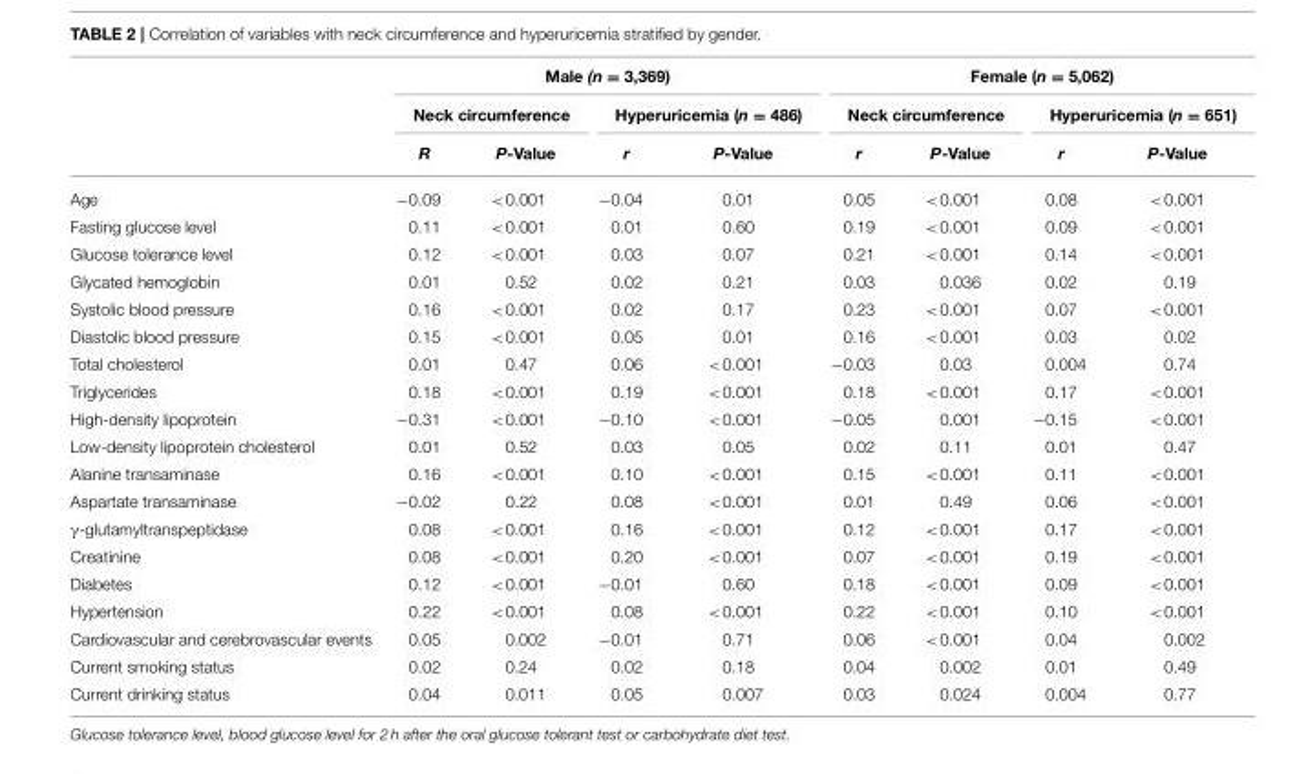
<table><thead><tr><td rowspan="3"></td><td colspan="4">Male (n = 3,369)</td><td colspan="4">Female (n = 5,062)</td></tr><tr><td colspan="2">Neck circumference</td><td colspan="2">Hyperuricemia (n = 486)</td><td colspan="2">Neck circumference</td><td colspan="2">Hyperuricemia (n = 651)</td></tr><tr><td>R</td><td>P-Value</td><td>r</td><td>P-Value</td><td>r</td><td>P-Value</td><td>r</td><td>P-Value</td></tr></thead><tbody><tr><td>Age</td><td>−0.09</td><td>&lt;0.001</td><td>−0.04</td><td>0.01</td><td>0.05</td><td>&lt;0.001</td><td>0.08</td><td>&lt;0.001</td></tr><tr><td>Fasting glucose level</td><td>0.11</td><td>&lt;0.001</td><td>0.01</td><td>0.60</td><td>0.19</td><td>&lt;0.001</td><td>0.09</td><td>&lt;0.001</td></tr><tr><td>Glucose tolerance level</td><td>0.12</td><td>&lt;0.001</td><td>0.03</td><td>0.07</td><td>0.21</td><td>&lt;0.001</td><td>0.14</td><td>&lt;0.001</td></tr><tr><td>Glycated hemoglobin</td><td>0.01</td><td>0.52</td><td>0.02</td><td>0.21</td><td>0.03</td><td>0.036</td><td>0.02</td><td>0.19</td></tr><tr><td>Systolic blood pressure</td><td>0.16</td><td>&lt;0.001</td><td>0.02</td><td>0.17</td><td>0.23</td><td>&lt;0.001</td><td>0.07</td><td>&lt;0.001</td></tr><tr><td>Diastolic blood pressure</td><td>0.15</td><td>&lt;0.001</td><td>0.05</td><td>0.01</td><td>0.16</td><td>&lt;0.001</td><td>0.03</td><td>0.02</td></tr><tr><td>Total cholesterol</td><td>0.01</td><td>0.47</td><td>0.06</td><td>&lt;0.001</td><td>−0.03</td><td>0.03</td><td>0.004</td><td>0.74</td></tr><tr><td>Triglycerides</td><td>0.18</td><td>&lt;0.001</td><td>0.19</td><td>&lt;0.001</td><td>0.18</td><td>&lt;0.001</td><td>0.17</td><td>&lt;0.001</td></tr><tr><td>High-density lipoprotein</td><td>−0.31</td><td>&lt;0.001</td><td>−0.10</td><td>&lt;0.001</td><td>−0.05</td><td>0.001</td><td>−0.15</td><td>&lt;0.001</td></tr><tr><td>Low-density lipoprotein cholesterol</td><td>0.01</td><td>0.52</td><td>0.03</td><td>0.05</td><td>0.02</td><td>0.11</td><td>0.01</td><td>0.47</td></tr><tr><td>Alanine transaminase</td><td>0.16</td><td>&lt;0.001</td><td>0.10</td><td>&lt;0.001</td><td>0.15</td><td>&lt;0.001</td><td>0.11</td><td>&lt;0.001</td></tr><tr><td>Aspartate transaminase</td><td>−0.02</td><td>0.22</td><td>0.08</td><td>&lt;0.001</td><td>0.01</td><td>0.49</td><td>0.06</td><td>&lt;0.001</td></tr><tr><td>γ-glutamyltranspeptidase</td><td>0.08</td><td>&lt;0.001</td><td>0.16</td><td>&lt;0.001</td><td>0.12</td><td>&lt;0.001</td><td>0.17</td><td>&lt;0.001</td></tr><tr><td>Creatinine</td><td>0.08</td><td>&lt;0.001</td><td>0.20</td><td>&lt;0.001</td><td>0.07</td><td>&lt;0.001</td><td>0.19</td><td>&lt;0.001</td></tr><tr><td>Diabetes</td><td>0.12</td><td>&lt;0.001</td><td>−0.01</td><td>0.60</td><td>0.18</td><td>&lt;0.001</td><td>0.09</td><td>&lt;0.001</td></tr><tr><td>Hypertension</td><td>0.22</td><td>&lt;0.001</td><td>0.08</td><td>&lt;0.001</td><td>0.22</td><td>&lt;0.001</td><td>0.10</td><td>&lt;0.001</td></tr><tr><td>Cardiovascular and cerebrovascular events</td><td>0.05</td><td>0.002</td><td>−0.01</td><td>0.71</td><td>0.06</td><td>&lt;0.001</td><td>0.04</td><td>0.002</td></tr><tr><td>Current smoking status</td><td>0.02</td><td>0.24</td><td>0.02</td><td>0.18</td><td>0.04</td><td>0.002</td><td>0.01</td><td>0.49</td></tr><tr><td>Current drinking status</td><td>0.04</td><td>0.011</td><td>0.05</td><td>0.007</td><td>0.03</td><td>0.024</td><td>0.004</td><td>0.77</td></tr></tbody></table>